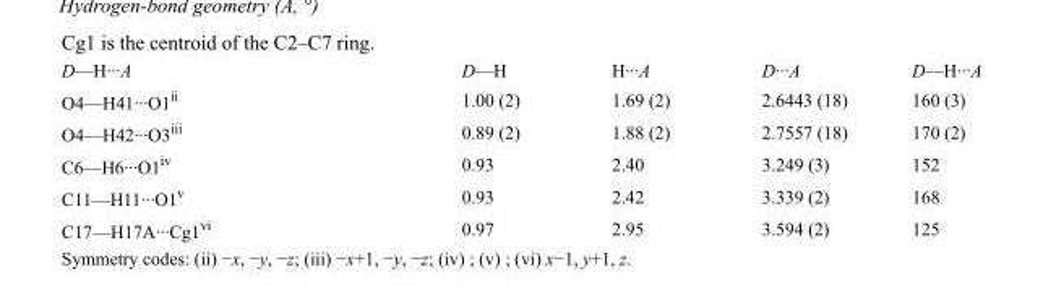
<table><tbody><tr><td>D—H···A</td><td>D—H</td><td>H···A</td><td>D···A</td><td>D—H···A</td></tr><tr><td>O4—H41···O1<sup>ii</sup></td><td>1.00 (2)</td><td>1.69 (2)</td><td>2.6443 (18)</td><td>160 (3)</td></tr><tr><td>O4—H42···O3<sup>iii</sup></td><td>0.89 (2)</td><td>1.88 (2)</td><td>2.7557 (18)</td><td>170 (2)</td></tr><tr><td>C6—H6···O1<sup>iv</sup></td><td>0.93</td><td>2.40</td><td>3.249 (3)</td><td>152</td></tr><tr><td>C11—H11···O1<sup>v</sup></td><td>0.93</td><td>2.42</td><td>3.339 (2)</td><td>168</td></tr><tr><td>C17—H17A···Cg1<sup>vi</sup></td><td>0.97</td><td>2.95</td><td>3.594 (2)</td><td>125</td></tr></tbody></table>